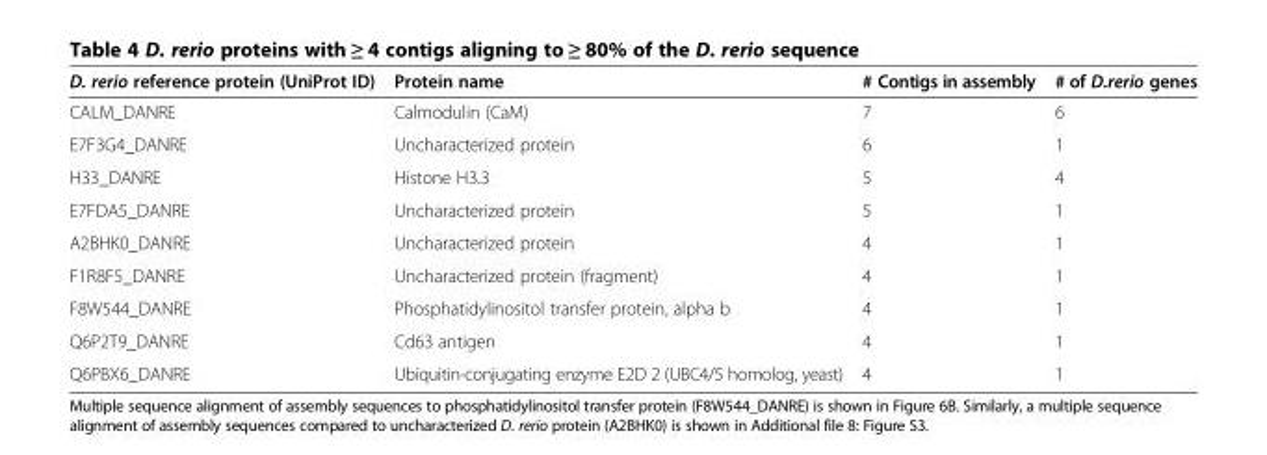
<table><thead><tr><td>D. rerio reference protein (UniProt ID)</td><td>Protein name</td><td># Contigs in assembly</td><td># of D.rerio genes</td></tr></thead><tbody><tr><td>CALM_DANRE</td><td>Calmodulin (CaM)</td><td>7</td><td>6</td></tr><tr><td>E7F3G4_DANRE</td><td>Uncharacterized protein</td><td>6</td><td>1</td></tr><tr><td>H33_DANRE</td><td>Histone H3.3</td><td>5</td><td>4</td></tr><tr><td>E7FDA5_DANRE</td><td>Uncharacterized protein</td><td>5</td><td>1</td></tr><tr><td>A2BHK0_DANRE</td><td>Uncharacterized protein</td><td>4</td><td>1</td></tr><tr><td>F1R8F5_DANRE</td><td>Uncharacterized protein (fragment)</td><td>4</td><td>1</td></tr><tr><td>F8W544_DANRE</td><td>Phosphatidylinositol transfer protein, alpha b</td><td>4</td><td>1</td></tr><tr><td>Q6P2T9_DANRE</td><td>Cd63 antigen</td><td>4</td><td>1</td></tr><tr><td>Q6PBX6_DANRE</td><td>Ubiquitin-conjugating enzyme E2D 2 (UBC4/5 homolog, yeast)</td><td>4</td><td>1</td></tr></tbody></table>